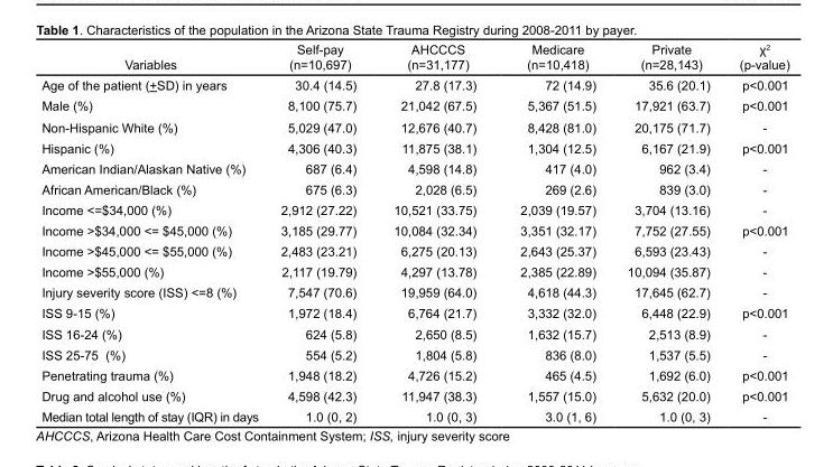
<table><thead><tr><td>Variables</td><td>Self-pay (n=10,697)</td><td>AHCCCS (n=31,177)</td><td>Medicare (n=10,418)</td><td>Private (n=28,143)</td><td>χ<sup>2</sup> (p-value)</td></tr></thead><tbody><tr><td>Age of the patient (+SD) in years</td><td>30.4 (14.5)</td><td>27.8 (17.3)</td><td>72 (14.9)</td><td>35.6 (20.1)</td><td>p&lt;0.001</td></tr><tr><td>Male (%)</td><td>8,100 (75.7)</td><td>21,042 (67.5)</td><td>5,367 (51.5)</td><td>17,921 (63.7)</td><td>p&lt;0.001</td></tr><tr><td>Non-Hispanic White (%)</td><td>5,029 (47.0)</td><td>12,676 (40.7)</td><td>8,428 (81.0)</td><td>20,175 (71.7)</td><td>-</td></tr><tr><td>Hispanic (%)</td><td>4,306 (40.3)</td><td>11,875 (38.1)</td><td>1,304 (12.5)</td><td>6,167 (21.9)</td><td>p&lt;0.001</td></tr><tr><td>American Indian/Alaskan Native (%)</td><td>687 (6.4)</td><td>4,598 (14.8)</td><td>417 (4.0)</td><td>962 (3.4)</td><td>-</td></tr><tr><td>African American/Black (%)</td><td>675 (6.3)</td><td>2,028 (6.5)</td><td>269 (2.6)</td><td>839 (3.0)</td><td>-</td></tr><tr><td>Income &lt;=$34,000 (%)</td><td>2,912 (27.22)</td><td>10,521 (33.75)</td><td>2,039 (19.57)</td><td>3,704 (13.16)</td><td>-</td></tr><tr><td>Income &gt;$34,000 &lt;= $45,000 (%)</td><td>3,185 (29.77)</td><td>10,084 (32.34)</td><td>3,351 (32.17)</td><td>7,752 (27.55)</td><td>p&lt;0.001</td></tr><tr><td>Income &gt;$45,000 &lt;= $55,000 (%)</td><td>2,483 (23.21)</td><td>6,275 (20.13)</td><td>2,643 (25.37)</td><td>6,593 (23.43)</td><td>-</td></tr><tr><td>Income &gt;$55,000 (%)</td><td>2,117 (19.79)</td><td>4,297 (13.78)</td><td>2,385 (22.89)</td><td>10,094 (35.87)</td><td>-</td></tr><tr><td>Injury severity score (ISS) &lt;=8 (%)</td><td>7,547 (70.6)</td><td>19,959 (64.0)</td><td>4,618 (44.3)</td><td>17,645 (62.7)</td><td>-</td></tr><tr><td>ISS 9-15 (%)</td><td>1,972 (18.4)</td><td>6,764 (21.7)</td><td>3,332 (32.0)</td><td>6,448 (22.9)</td><td>p&lt;0.001</td></tr><tr><td>ISS 16-24 (%)</td><td>624 (5.8)</td><td>2,650 (8.5)</td><td>1,632 (15.7)</td><td>2,513 (8.9)</td><td>-</td></tr><tr><td>ISS 25-75 (%)</td><td>554 (5.2)</td><td>1,804 (5.8)</td><td>836 (8.0)</td><td>1,537 (5.5)</td><td>-</td></tr><tr><td>Penetrating trauma (%)</td><td>1,948 (18.2)</td><td>4,726 (15.2)</td><td>465 (4.5)</td><td>1,692 (6.0)</td><td>p&lt;0.001</td></tr><tr><td>Drug and alcohol use (%)</td><td>4,598 (42.3)</td><td>11,947 (38.3)</td><td>1,557 (15.0)</td><td>5,632 (20.0)</td><td>p&lt;0.001</td></tr><tr><td>Median total length of stay (IQR) in days</td><td>1.0 (0, 2)</td><td>1.0 (0, 3)</td><td>3.0 (1, 6)</td><td>1.0 (0, 3)</td><td>-</td></tr></tbody></table>